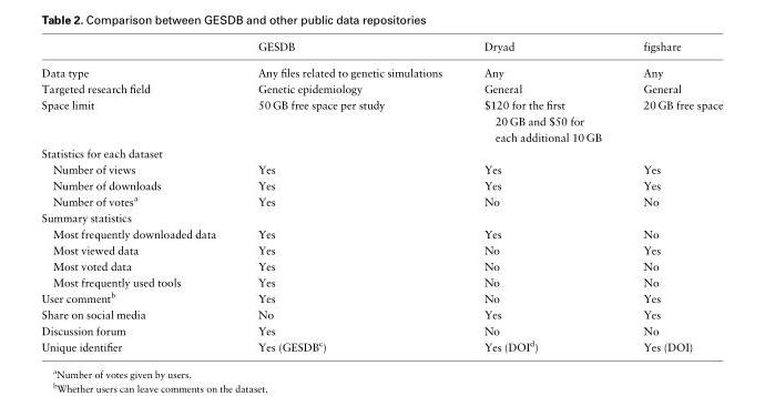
<table><thead><tr><td></td><td>GESDB</td><td>Dryad</td><td>figshare</td></tr></thead><tbody><tr><td>Data type</td><td>Any files related to genetic simulations</td><td>Any</td><td>Any</td></tr><tr><td>Targeted research field</td><td>Genetic epidemiology</td><td>General</td><td>General</td></tr><tr><td>Space limit</td><td>50 GB free space per study</td><td>$120 for the first 20 GB and $50 for each additional 10 GB</td><td>20 GB free space</td></tr><tr><td colspan="4">Statistics for each dataset</td></tr><tr><td>Number of views</td><td>Yes</td><td>Yes</td><td>Yes</td></tr><tr><td>Number of downloads</td><td>Yes</td><td>Yes</td><td>Yes</td></tr><tr><td>Number of votes<sup>a</sup></td><td>Yes</td><td>No</td><td>No</td></tr><tr><td colspan="4">Summary statistics</td></tr><tr><td>Most frequently downloaded data</td><td>Yes</td><td>Yes</td><td>No</td></tr><tr><td>Most viewed data</td><td>Yes</td><td>No</td><td>Yes</td></tr><tr><td>Most voted data</td><td>Yes</td><td>No</td><td>No</td></tr><tr><td>Most frequently used tools</td><td>Yes</td><td>No</td><td>No</td></tr><tr><td>User comment<sup>b</sup></td><td>Yes</td><td>No</td><td>Yes</td></tr><tr><td>Share on social media</td><td>No</td><td>Yes</td><td>Yes</td></tr><tr><td>Discussion forum</td><td>Yes</td><td>No</td><td>No</td></tr><tr><td>Unique identifier</td><td>Yes (GESDB<sup>c</sup>)</td><td>Yes (DOI<sup>d</sup>)</td><td>Yes (DOI)</td></tr></tbody></table>